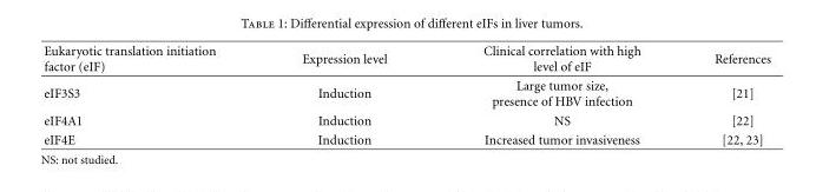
<table><thead><tr><td>Eukaryotic translation initiation factor (eIF)</td><td>Expression level</td><td>Clinical correlation with high level of eIF</td><td>References</td></tr></thead><tbody><tr><td>eIF3S3</td><td>Induction</td><td>Large tumor size, presence of HBV infection</td><td>[21]</td></tr><tr><td>eIF4A1</td><td>Induction</td><td>NS</td><td>[22]</td></tr><tr><td>eIF4E</td><td>Induction</td><td>Increased tumor invasiveness</td><td>[22, 23]</td></tr></tbody></table>